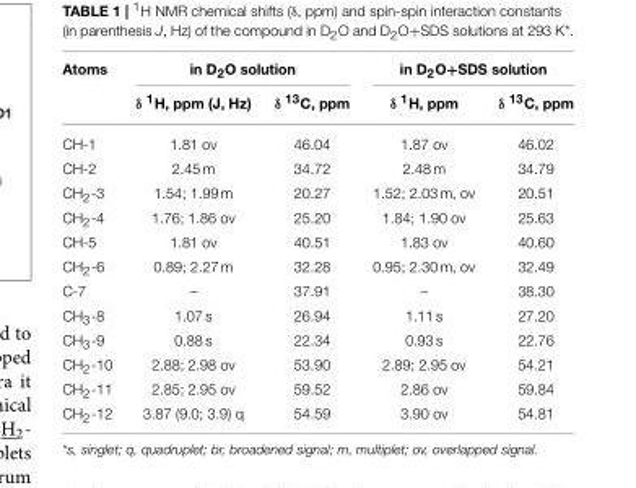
<table><thead><tr><td rowspan="2">Atoms</td><td colspan="2">in D<sub>2</sub>O solution</td><td colspan="2">in D<sub>2</sub>O+SDS solution</td></tr><tr><td>δ <sup>1</sup>H, ppm (J, Hz)</td><td>δ <sup>13</sup>C, ppm</td><td>δ <sup>1</sup>H, ppm</td><td>δ <sup>13</sup>C, ppm</td></tr></thead><tbody><tr><td>CH-1</td><td>1.81 ov</td><td>46.04</td><td>1.87 ov</td><td>46.02</td></tr><tr><td>CH-2</td><td>2.45 m</td><td>34.72</td><td>2.48 m</td><td>34.79</td></tr><tr><td>CH<sub>2</sub>-3</td><td>1.54; 1.99 m</td><td>20.27</td><td>1.52; 2.03 m, ov</td><td>20.51</td></tr><tr><td>CH<sub>2</sub>-4</td><td>1.76; 1.86 ov</td><td>25.20</td><td>1.84; 1.90 ov</td><td>25.63</td></tr><tr><td>CH-5</td><td>1.81 ov</td><td>40.51</td><td>1.83 ov</td><td>40.60</td></tr><tr><td>CH<sub>2</sub>-6</td><td>0.89; 2.27 m</td><td>32.28</td><td>0.95; 2.30 m, ov</td><td>32.49</td></tr><tr><td>C-7</td><td>–</td><td>37.91</td><td>–</td><td>38.30</td></tr><tr><td>CH<sub>3</sub>-8</td><td>1.07 s</td><td>26.94</td><td>1.11 s</td><td>27.20</td></tr><tr><td>CH<sub>3</sub>-9</td><td>0.88 s</td><td>22.34</td><td>0.93 s</td><td>22.76</td></tr><tr><td>CH<sub>2</sub>-10</td><td>2.88; 2.98 ov</td><td>53.90</td><td>2.89; 2.95 ov</td><td>54.21</td></tr><tr><td>CH<sub>2</sub>-11</td><td>2.85; 2.95 ov</td><td>59.52</td><td>2.86 ov</td><td>59.84</td></tr><tr><td>CH<sub>2</sub>-12</td><td>3.87 (9.0; 3.9) q</td><td>54.59</td><td>3.90 ov</td><td>54.81</td></tr></tbody></table>